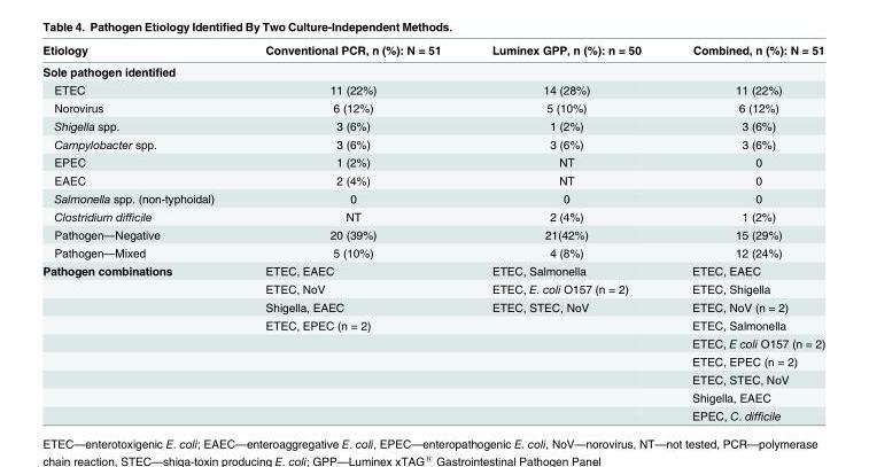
<table><thead><tr><td>Etiology</td><td>Conventional PCR, n (%): N = 51</td><td>Luminex GPP, n (%): n = 50</td><td>Combined, n (%): N = 51</td></tr></thead><tbody><tr><td colspan="4">Sole pathogen identified</td></tr><tr><td>ETEC</td><td>11 (22%)</td><td>14 (28%)</td><td>11 (22%)</td></tr><tr><td>Norovirus</td><td>6 (12%)</td><td>5 (10%)</td><td>6 (12%)</td></tr><tr><td>Shigella spp.</td><td>3 (6%)</td><td>1 (2%)</td><td>3 (6%)</td></tr><tr><td>Campylobacter spp.</td><td>3 (6%)</td><td>3 (6%)</td><td>3 (6%)</td></tr><tr><td>EPEC</td><td>1 (2%)</td><td>NT</td><td>0</td></tr><tr><td>EAEC</td><td>2 (4%)</td><td>NT</td><td>0</td></tr><tr><td>Salmonella spp. (non-typhoidal)</td><td>0</td><td>0</td><td>0</td></tr><tr><td>Clostridium difficile</td><td>NT</td><td>2 (4%)</td><td>1 (2%)</td></tr><tr><td>Pathogen—Negative</td><td>20 (39%)</td><td>21(42%)</td><td>15 (29%)</td></tr><tr><td>Pathogen—Mixed</td><td>5 (10%)</td><td>4 (8%)</td><td>12 (24%)</td></tr><tr><td rowspan="9">Pathogen combinations</td><td>ETEC, EAEC</td><td>ETEC, Salmonella</td><td>ETEC, EAEC</td></tr><tr><td>ETEC, NoV</td><td>ETEC, E. coli O157 (n = 2)</td><td>ETEC, Shigella</td></tr><tr><td>Shigella, EAEC</td><td>ETEC, STEC, NoV</td><td>ETEC, NoV (n = 2)</td></tr><tr><td>ETEC, EPEC (n = 2)</td><td></td><td>ETEC, Salmonella</td></tr><tr><td></td><td></td><td>ETEC, E coli O157 (n = 2)</td></tr><tr><td></td><td></td><td>ETEC, EPEC (n = 2)</td></tr><tr><td></td><td></td><td>ETEC, STEC, NoV</td></tr><tr><td></td><td></td><td>Shigella, EAEC</td></tr><tr><td></td><td></td><td>EPEC, C. difficile</td></tr></tbody></table>